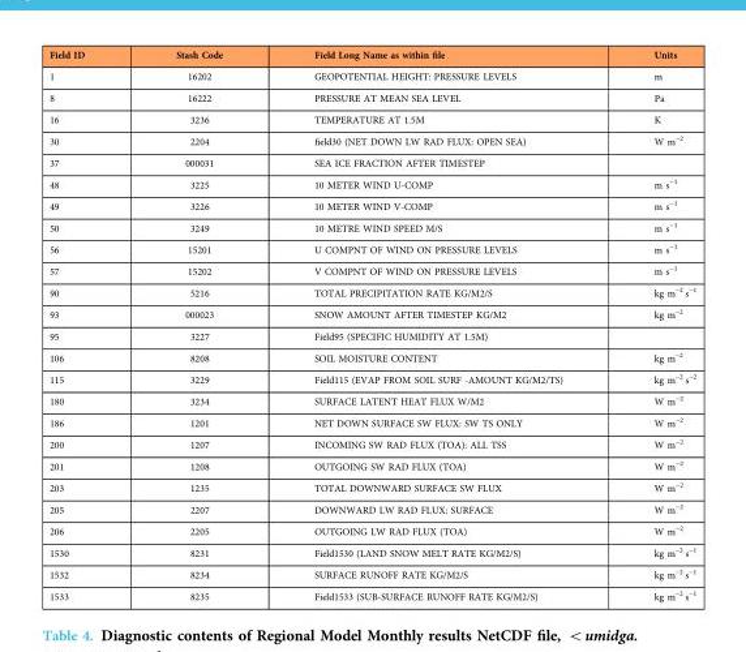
<table><thead><tr><td>Field ID</td><td>Stash Code</td><td>Field Long Name as within file</td><td>Units</td></tr></thead><tbody><tr><td>1</td><td>16202</td><td>GEOPOTENTIAL HEIGHT: PRESSURE LEVELS</td><td>m</td></tr><tr><td>8</td><td>16222</td><td>PRESSURE AT MEAN SEA LEVEL</td><td>Pa</td></tr><tr><td>16</td><td>3236</td><td>TEMPERATURE AT 1.5M</td><td>K</td></tr><tr><td>30</td><td>2204</td><td>field30 (NET DOWN LW RAD FLUX: OPEN SEA)</td><td>W m<sup>−2</sup></td></tr><tr><td>37</td><td>000031</td><td>SEA ICE FRACTION AFTER TIMESTEP</td><td></td></tr><tr><td>48</td><td>3225</td><td>10 METER WIND U-COMP</td><td>m s<sup>−1</sup></td></tr><tr><td>49</td><td>3226</td><td>10 METER WIND V-COMP</td><td>m s<sup>−1</sup></td></tr><tr><td>50</td><td>3249</td><td>10 METRE WIND SPEED M/S</td><td>m s<sup>−1</sup></td></tr><tr><td>56</td><td>15201</td><td>U COMPNT OF WIND ON PRESSURE LEVELS</td><td>m s<sup>−1</sup></td></tr><tr><td>57</td><td>15202</td><td>V COMPNT OF WIND ON PRESSURE LEVELS</td><td>m s<sup>−1</sup></td></tr><tr><td>90</td><td>5216</td><td>TOTAL PRECIPITATION RATE KG/M2/S</td><td>kg m<sup>−2</sup> s<sup>−1</sup></td></tr><tr><td>93</td><td>000023</td><td>SNOW AMOUNT AFTER TIMESTEP KG/M2</td><td>kg m<sup>−2</sup></td></tr><tr><td>95</td><td>3227</td><td>Field95 (SPECIFIC HUMIDITY AT 1.5M)</td><td></td></tr><tr><td>106</td><td>8208</td><td>SOIL MOISTURE CONTENT</td><td>kg m<sup>−2</sup></td></tr><tr><td>115</td><td>3229</td><td>Field115 (EVAP FROM SOIL SURF -AMOUNT KG/M2/TS)</td><td>kg m<sup>−2</sup> s<sup>−2</sup></td></tr><tr><td>180</td><td>3234</td><td>SURFACE LATENT HEAT FLUX W/M2</td><td>W m<sup>−2</sup></td></tr><tr><td>186</td><td>1201</td><td>NET DOWN SURFACE SW FLUX: SW TS ONLY</td><td>W m<sup>−2</sup></td></tr><tr><td>200</td><td>1207</td><td>INCOMING SW RAD FLUX (TOA): ALL TSS</td><td>W m<sup>−2</sup></td></tr><tr><td>201</td><td>1208</td><td>OUTGOING SW RAD FLUX (TOA)</td><td>W m<sup>−2</sup></td></tr><tr><td>203</td><td>1235</td><td>TOTAL DOWNWARD SURFACE SW FLUX</td><td>W m<sup>−2</sup></td></tr><tr><td>205</td><td>2207</td><td>DOWNWARD LW RAD FLUX: SURFACE</td><td>W m<sup>−2</sup></td></tr><tr><td>206</td><td>2205</td><td>OUTGOING LW RAD FLUX (TOA)</td><td>W m<sup>−2</sup></td></tr><tr><td>1530</td><td>8231</td><td>Field1530 (LAND SNOW MELT RATE KG/M2/S)</td><td>kg m<sup>−2</sup> s<sup>−1</sup></td></tr><tr><td>1532</td><td>8234</td><td>SURFACE RUNOFF RATE KG/M2/S</td><td>kg m<sup>−2</sup> s<sup>−1</sup></td></tr><tr><td>1533</td><td>8235</td><td>Field1533 (SUB-SURFACE RUNOFF RATE KG/M2/S)</td><td>kg m<sup>−2</sup> s<sup>−1</sup></td></tr></tbody></table>